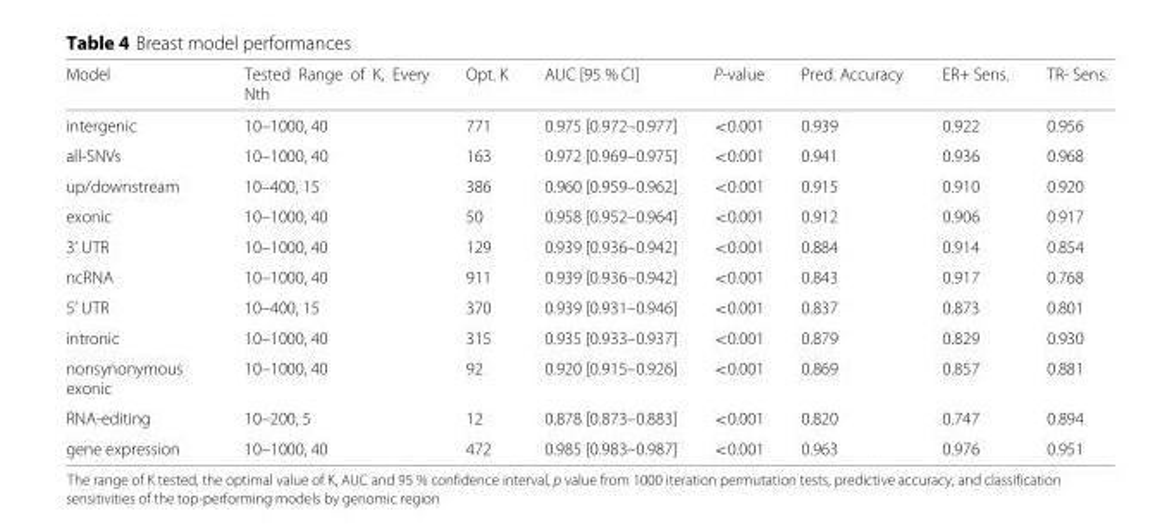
<table><thead><tr><td>Model</td><td>Tested Range of K, Every Nth</td><td>Opt. K</td><td>AUC [95 % CI]</td><td>P-value</td><td>Pred. Accuracy</td><td>ER+ Sens.</td><td>TR- Sens.</td></tr></thead><tbody><tr><td>intergenic</td><td>10–1000, 40</td><td>771</td><td>0.975 [0.972–0.977]</td><td>&lt;0.001</td><td>0.939</td><td>0.922</td><td>0.956</td></tr><tr><td>all-SNVs</td><td>10–1000, 40</td><td>163</td><td>0.972 [0.969–0.975]</td><td>&lt;0.001</td><td>0.941</td><td>0.936</td><td>0.968</td></tr><tr><td>up/downstream</td><td>10–400, 15</td><td>386</td><td>0.960 [0.959–0.962]</td><td>&lt;0.001</td><td>0.915</td><td>0.910</td><td>0.920</td></tr><tr><td>exonic</td><td>10–1000, 40</td><td>50</td><td>0.958 [0.952–0.964]</td><td>&lt;0.001</td><td>0.912</td><td>0.906</td><td>0.917</td></tr><tr><td>3’ UTR</td><td>10–1000, 40</td><td>129</td><td>0.939 [0.936–0.942]</td><td>&lt;0.001</td><td>0.884</td><td>0.914</td><td>0.854</td></tr><tr><td>ncRNA</td><td>10–1000, 40</td><td>911</td><td>0.939 [0.936–0.942]</td><td>&lt;0.001</td><td>0.843</td><td>0.917</td><td>0.768</td></tr><tr><td>5’ UTR</td><td>10–400, 15</td><td>370</td><td>0.939 [0.931–0.946]</td><td>&lt;0.001</td><td>0.837</td><td>0.873</td><td>0.801</td></tr><tr><td>intronic</td><td>10–1000, 40</td><td>315</td><td>0.935 [0.933–0.937]</td><td>&lt;0.001</td><td>0.879</td><td>0.829</td><td>0.930</td></tr><tr><td>nonsynonymous exonic</td><td>10–1000, 40</td><td>92</td><td>0.920 [0.915–0.926]</td><td>&lt;0.001</td><td>0.869</td><td>0.857</td><td>0.881</td></tr><tr><td>RNA-editing</td><td>10–200, 5</td><td>12</td><td>0.878 [0.873–0.883]</td><td>&lt;0.001</td><td>0.820</td><td>0.747</td><td>0.894</td></tr><tr><td>gene expression</td><td>10–1000, 40</td><td>472</td><td>0.985 [0.983–0.987]</td><td>&lt;0.001</td><td>0.963</td><td>0.976</td><td>0.951</td></tr></tbody></table>